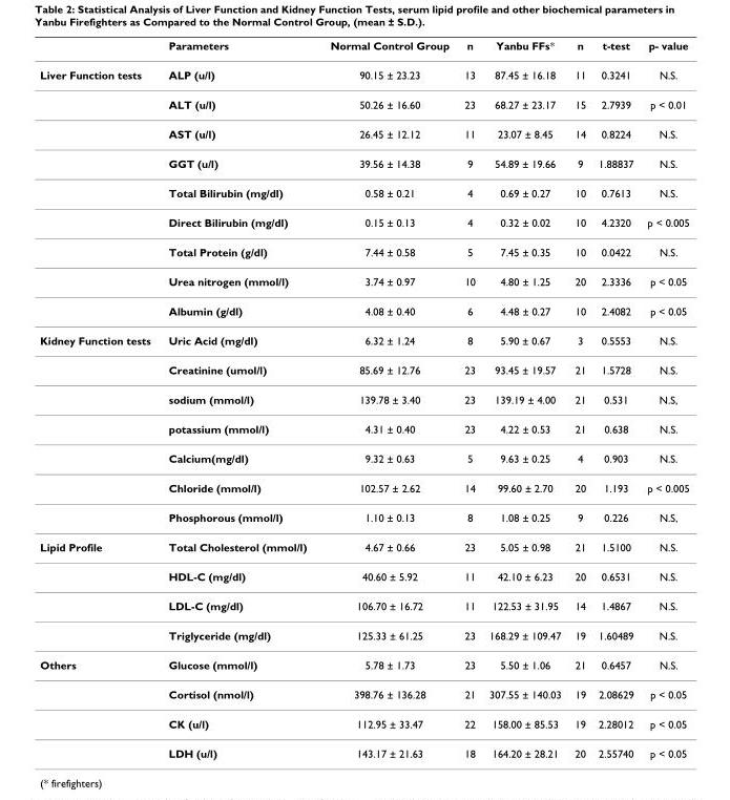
<table><thead><tr><td></td><td>Parameters</td><td>Normal Control Group</td><td>n</td><td>Yanbu FFs*</td><td>n</td><td>t-test</td><td>p- value</td></tr></thead><tbody><tr><td rowspan="9">Liver Function tests</td><td>ALP (u/l)</td><td>90.15 ± 23.23</td><td>13</td><td>87.45 ± 16.18</td><td>11</td><td>0.3241</td><td>N.S.</td></tr><tr><td>ALT (u/l)</td><td>50.26 ± 16.60</td><td>23</td><td>68.27 ± 23.17</td><td>15</td><td>2.7939</td><td>p &lt; 0.01</td></tr><tr><td>AST (u/l)</td><td>26.45 ± 12.12</td><td>11</td><td>23.07 ± 8.45</td><td>14</td><td>0.8224</td><td>N.S.</td></tr><tr><td>GGT (u/l)</td><td>39.56 ± 14.38</td><td>9</td><td>54.89 ± 19.66</td><td>9</td><td>1.88837</td><td>N.S.</td></tr><tr><td>Total Bilirubin (mg/dl)</td><td>0.58 ± 0.21</td><td>4</td><td>0.69 ± 0.27</td><td>10</td><td>0.7613</td><td>N.S.</td></tr><tr><td>Direct Bilirubin (mg/dl)</td><td>0.15 ± 0.13</td><td>4</td><td>0.32 ± 0.02</td><td>10</td><td>4.2320</td><td>p &lt; 0.005</td></tr><tr><td>Total Protein (g/dl)</td><td>7.44 ± 0.58</td><td>5</td><td>7.45 ± 0.35</td><td>10</td><td>0.0422</td><td>N.S.</td></tr><tr><td>Urea nitrogen (mmol/l)</td><td>3.74 ± 0.97</td><td>10</td><td>4.80 ± 1.25</td><td>20</td><td>2.3336</td><td>p &lt; 0.05</td></tr><tr><td>Albumin (g/dl)</td><td>4.08 ± 0.40</td><td>6</td><td>4.48 ± 0.27</td><td>10</td><td>2.4082</td><td>p &lt; 0.05</td></tr><tr><td rowspan="7">Kidney Function tests</td><td>Uric Acid (mg/dl)</td><td>6.32 ± 1.24</td><td>8</td><td>5.90 ± 0.67</td><td>3</td><td>0.5553</td><td>N.S.</td></tr><tr><td>Creatinine (umol/l)</td><td>85.69 ± 12.76</td><td>23</td><td>93.45 ± 19.57</td><td>21</td><td>1.5728</td><td>N.S.</td></tr><tr><td>sodium (mmol/l)</td><td>139.78 ± 3.40</td><td>23</td><td>139.19 ± 4.00</td><td>21</td><td>0.531</td><td>N.S,</td></tr><tr><td>potassium (mmol/l)</td><td>4.31 ± 0.40</td><td>23</td><td>4.22 ± 0.53</td><td>21</td><td>0.638</td><td>N.S.</td></tr><tr><td>Calcium(mg/dl)</td><td>9.32 ± 0.63</td><td>5</td><td>9.63 ± 0.25</td><td>4</td><td>0.903</td><td>N.S.</td></tr><tr><td>Chloride (mmol/l)</td><td>102.57 ± 2.62</td><td>14</td><td>99.60 ± 2.70</td><td>20</td><td>1.193</td><td>p &lt; 0.005</td></tr><tr><td>Phosphorous (mmol/l)</td><td>1.10 ± 0.13</td><td>8</td><td>1.08 ± 0.25</td><td>9</td><td>0.226</td><td>N.S,</td></tr><tr><td rowspan="4">Lipid Profile</td><td>Total Cholesterol (mmol/l)</td><td>4.67 ± 0.66</td><td>23</td><td>5.05 ± 0.98</td><td>21</td><td>1.5100</td><td>N.S.</td></tr><tr><td>HDL-C (mg/dl)</td><td>40.60 ± 5.92</td><td>11</td><td>42.10 ± 6.23</td><td>20</td><td>0.6531</td><td>N.S.</td></tr><tr><td>LDL-C (mg/dl)</td><td>106.70 ± 16.72</td><td>11</td><td>122.53 ± 31.95</td><td>14</td><td>1.4867</td><td>N.S.</td></tr><tr><td>Triglyceride (mg/dl)</td><td>125.33 ± 61.25</td><td>23</td><td>168.29 ± 109.47</td><td>19</td><td>1.60489</td><td>N.S.</td></tr><tr><td rowspan="4">Others</td><td>Glucose (mmol/l)</td><td>5.78 ± 1.73</td><td>23</td><td>5.50 ± 1.06</td><td>21</td><td>0.6457</td><td>N.S.</td></tr><tr><td>Cortisol (nmol/l)</td><td>398.76 ± 136.28</td><td>21</td><td>307.55 ± 140.03</td><td>19</td><td>2.08629</td><td>p &lt; 0.05</td></tr><tr><td>CK (u/l)</td><td>112.95 ± 33.47</td><td>22</td><td>158.00 ± 85.53</td><td>19</td><td>2.28012</td><td>p &lt; 0.05</td></tr><tr><td>LDH (u/l)</td><td>143.17 ± 21.63</td><td>18</td><td>164.20 ± 28.21</td><td>20</td><td>2.55740</td><td>p &lt; 0.05</td></tr></tbody></table>